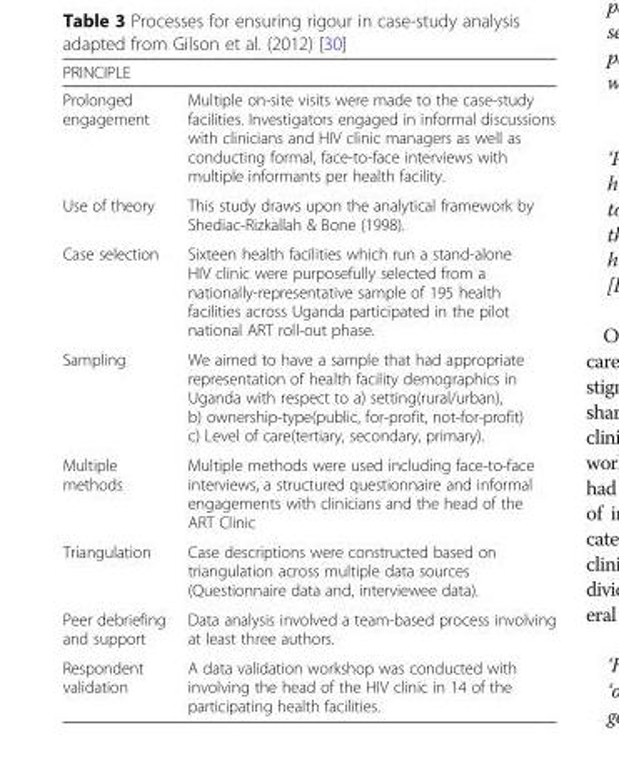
<table><thead><tr><td colspan="2">PRINCIPLE</td></tr><tr><td>Prolonged engagement</td><td>Multiple on-site visits were made to the case-study facilities. Investigators engaged in informal discussions with clinicians and HIV clinic managers as well as conducting formal, face-to-face interviews with multiple informants per health facility.</td></tr></thead><tbody><tr><td>Use of theory</td><td>This study draws upon the analytical framework by Shediac-Rizkallah &amp; Bone (1998).</td></tr><tr><td>Case selection</td><td>Sixteen health facilities which run a stand-alone HIV clinic were purposefully selected from a nationally-representative sample of 195 health facilities across Uganda participated in the pilot national ART roll-out phase.</td></tr><tr><td>Sampling</td><td>We aimed to have a sample that had appropriate representation of health facility demographics in Uganda with respect to a) setting(rural/urban), b) ownership-type(public, for-profit, not-for-profit) c) Level of care(tertiary, secondary, primary).</td></tr><tr><td>Multiple methods</td><td>Multiple methods were used including face-to-face interviews, a structured questionnaire and informal engagements with clinicians and the head of the ART Clinic</td></tr><tr><td>Triangulation</td><td>Case descriptions were constructed based on triangulation across multiple data sources (Questionnaire data and, interviewee data).</td></tr><tr><td>Peer debriefing and support</td><td>Data analysis involved a team-based process involving at least three authors.</td></tr><tr><td>Respondent validation</td><td>A data validation workshop was conducted with involving the head of the HIV clinic in 14 of the participating health facilities.</td></tr></tbody></table>